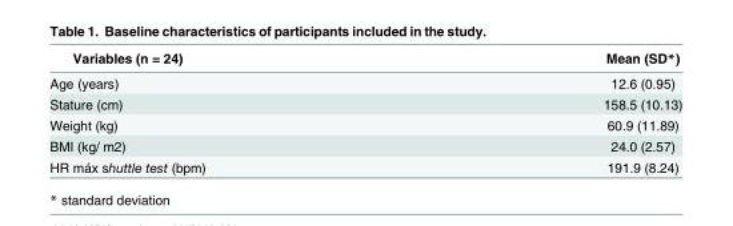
<table><thead><tr><td>Variables (n = 24)</td><td>Mean (SD*)</td></tr></thead><tbody><tr><td>Age (years)</td><td>12.6 (0.95)</td></tr><tr><td>Stature (cm)</td><td>158.5 (10.13)</td></tr><tr><td>Weight (kg)</td><td>60.9 (11.89)</td></tr><tr><td>BMI (kg/ m2)</td><td>24.0 (2.57)</td></tr><tr><td>HR máx shuttle test (bpm)</td><td>191.9 (8.24)</td></tr></tbody></table>